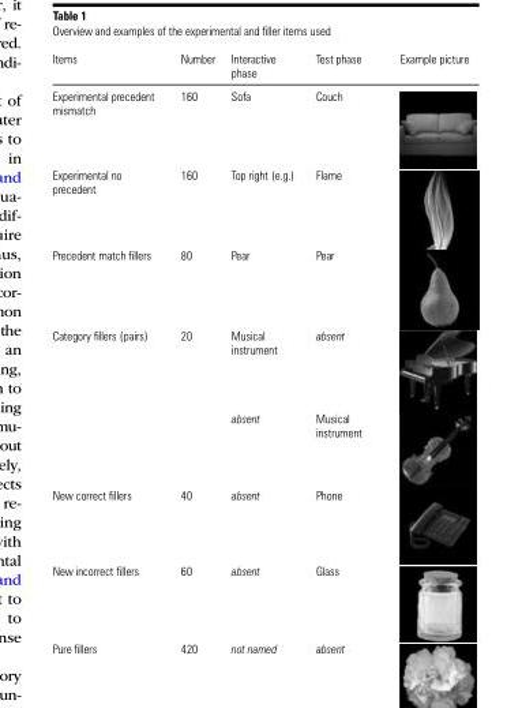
<table><thead><tr><td>Items</td><td>Number</td><td>Interactive phase</td><td>Test phase</td><td>Example picture</td></tr></thead><tbody><tr><td>Experimental precedent mismatch</td><td>160</td><td>Sofa</td><td>Couch</td><td></td></tr><tr><td>Experimental no precedent</td><td>160</td><td>Top right (e.g.)</td><td>Flame</td><td></td></tr><tr><td>Precedent match fillers</td><td>80</td><td>Pear</td><td>Pear</td><td></td></tr><tr><td rowspan="2">Category fillers (pairs)</td><td>20</td><td>Musical instrument</td><td>absent</td><td></td></tr><tr><td></td><td>absent</td><td>Musical instrument</td><td></td></tr><tr><td>New correct fillers</td><td>40</td><td>absent</td><td>Phone</td><td></td></tr><tr><td>New incorrect fillers</td><td>60</td><td>absent</td><td>Glass</td><td></td></tr><tr><td>Pure fillers</td><td>420</td><td>not named</td><td>absent</td><td></td></tr></tbody></table>